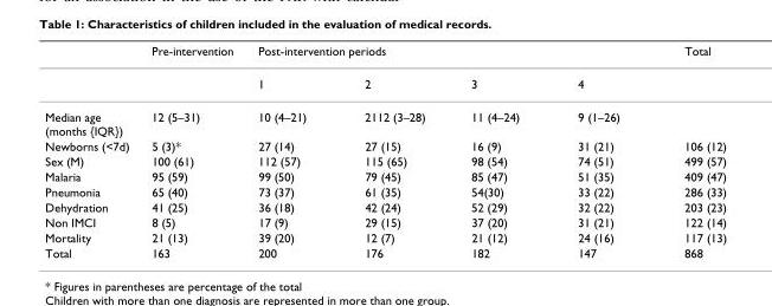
<table><thead><tr><td rowspan="2"></td><td rowspan="2">Pre-intervention</td><td colspan="4">Post-intervention periods</td><td rowspan="2">Total</td></tr><tr><td>1</td><td>2</td><td>3</td><td>4</td></tr></thead><tbody><tr><td>Median age (months {IQR})</td><td>12 (5–31)</td><td>10 (4–21)</td><td>2112 (3–28)</td><td>11 (4–24)</td><td>9 (1–26)</td><td></td></tr><tr><td>Newborns (&lt;7d)</td><td>5 (3)*</td><td>27 (14)</td><td>27 (15)</td><td>16 (9)</td><td>31 (21)</td><td>106 (12)</td></tr><tr><td>Sex (M)</td><td>100 (61)</td><td>112 (57)</td><td>115 (65)</td><td>98 (54)</td><td>74 (51)</td><td>499 (57)</td></tr><tr><td>Malaria</td><td>95 (59)</td><td>99 (50)</td><td>79 (45)</td><td>85 (47)</td><td>51 (35)</td><td>409 (47)</td></tr><tr><td>Pneumonia</td><td>65 (40)</td><td>73 (37)</td><td>61 (35)</td><td>54(30)</td><td>33 (22)</td><td>286 (33)</td></tr><tr><td>Dehydration</td><td>41 (25)</td><td>36 (18)</td><td>42 (24)</td><td>52 (29)</td><td>32 (22)</td><td>203 (23)</td></tr><tr><td>Non IMCI</td><td>8 (5)</td><td>17 (9)</td><td>29 (15)</td><td>37 (20)</td><td>31 (21)</td><td>122 (14)</td></tr><tr><td>Mortality</td><td>21 (13)</td><td>39 (20)</td><td>12 (7)</td><td>21 (12)</td><td>24 (16)</td><td>117 (13)</td></tr><tr><td>Total</td><td>163</td><td>200</td><td>176</td><td>182</td><td>147</td><td>868</td></tr></tbody></table>